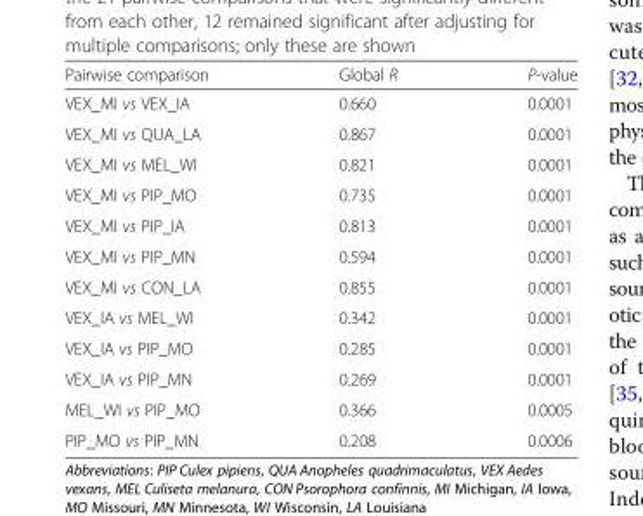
<table><thead><tr><td>Pairwise comparison</td><td>Global R</td><td>P-value</td></tr></thead><tbody><tr><td>VEX_MI vs VEX_IA</td><td>0.660</td><td>0.0001</td></tr><tr><td>VEX_MI vs QUA_LA</td><td>0.867</td><td>0.0001</td></tr><tr><td>VEX_MI vs MEL_WI</td><td>0.821</td><td>0.0001</td></tr><tr><td>VEX_MI vs PIP_MO</td><td>0.735</td><td>0.0001</td></tr><tr><td>VEX_MI vs PIP_IA</td><td>0.813</td><td>0.0001</td></tr><tr><td>VEX_MI vs PIP_MN</td><td>0.594</td><td>0.0001</td></tr><tr><td>VEX_MI vs CON_LA</td><td>0.855</td><td>0.0001</td></tr><tr><td>VEX_IA vs MEL_WI</td><td>0.342</td><td>0.0001</td></tr><tr><td>VEX_IA vs PIP_MO</td><td>0.285</td><td>0.0001</td></tr><tr><td>VEX_IA vs PIP_MN</td><td>0.269</td><td>0.0001</td></tr><tr><td>MEL_WI vs PIP_MO</td><td>0.366</td><td>0.0005</td></tr><tr><td>PIP_MO vs PIP_MN</td><td>0.208</td><td>0.0006</td></tr></tbody></table>